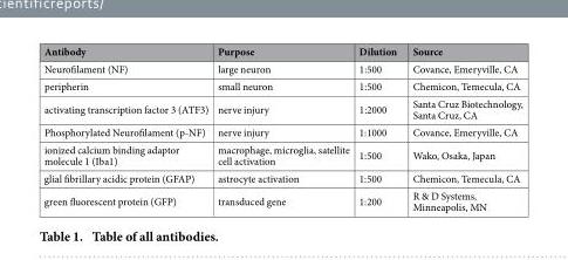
<table><thead><tr><td>Antibody</td><td>Purpose</td><td>Dilution</td><td>Source</td></tr></thead><tbody><tr><td>Neurofilament (NF)</td><td>large neuron</td><td>1:500</td><td>Covance, Emeryville, CA</td></tr><tr><td>peripherin</td><td>small neuron</td><td>1:500</td><td>Chemicon, Temecula, CA</td></tr><tr><td>activating transcription factor 3 (ATF3)</td><td>nerve injury</td><td>1:2000</td><td>Santa Cruz Biotechnology, Santa Cruz, CA</td></tr><tr><td>Phosphorylated Neurofilament (p-NF)</td><td>nerve injury</td><td>1:1000</td><td>Covance, Emeryville, CA</td></tr><tr><td>ionized calcium binding adaptor molecule 1 (Iba1)</td><td>macrophage, microglia, satellite cell activation</td><td>1:500</td><td>Wako, Osaka, Japan</td></tr><tr><td>glial fibrillary acidic protein (GFAP)</td><td>astrocyte activation</td><td>1:500</td><td>Chemicon, Temecula, CA</td></tr><tr><td>green fluorescent protein (GFP)</td><td>transduced gene</td><td>1:200</td><td>R &amp; D Systems, Minneapolis, MN</td></tr></tbody></table>